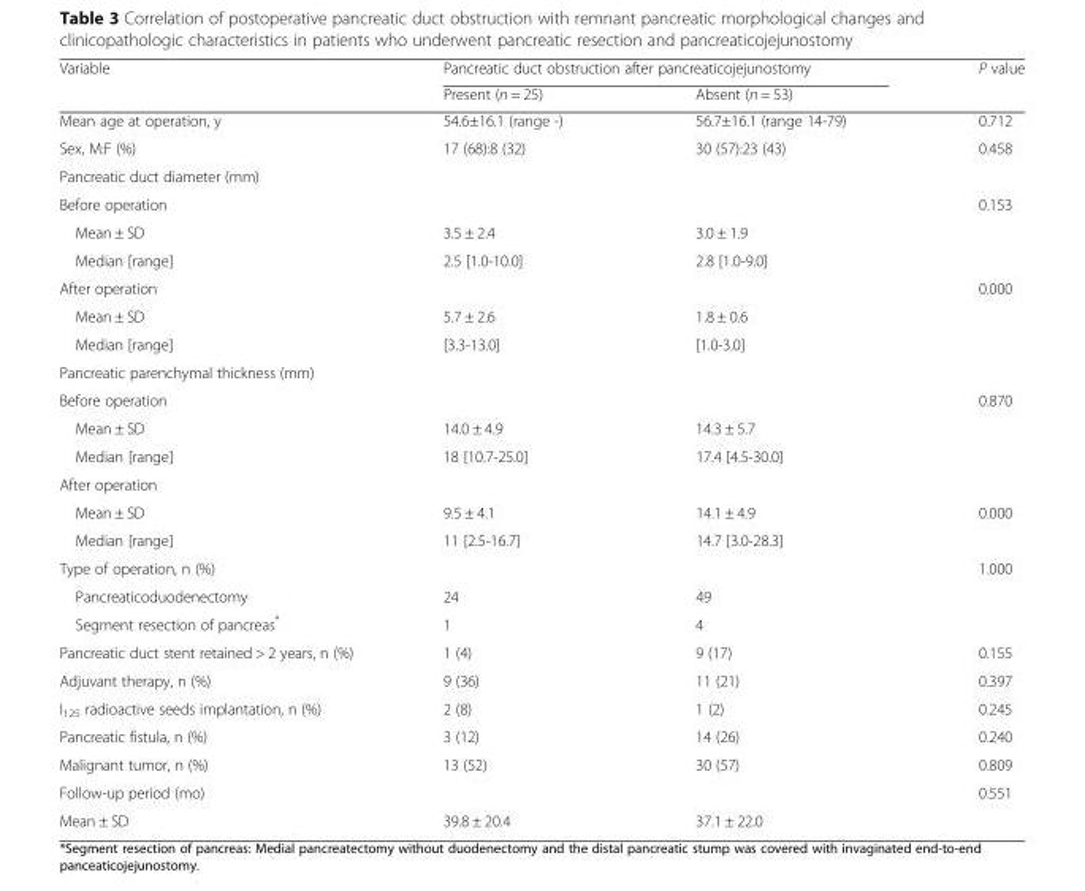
<table><thead><tr><td rowspan="2">Variable</td><td colspan="2">Pancreatic duct obstruction after pancreaticojejunostomy</td><td rowspan="2">P value</td></tr><tr><td>Present (n = 25)</td><td>Absent (n = 53)</td></tr></thead><tbody><tr><td>Mean age at operation, y</td><td>54.6±16.1 (range -)</td><td>56.7±16.1 (range 14-79)</td><td>0.712</td></tr><tr><td>Sex, M:F (%)</td><td>17 (68):8 (32)</td><td>30 (57):23 (43)</td><td>0.458</td></tr><tr><td colspan="4">Pancreatic duct diameter (mm)</td></tr><tr><td>Before operation</td><td></td><td></td><td>0.153</td></tr><tr><td>Mean ± SD</td><td>3.5 ± 2.4</td><td>3.0 ± 1.9</td><td></td></tr><tr><td>Median [range]</td><td>2.5 [1.0-10.0]</td><td>2.8 [1.0-9.0]</td><td></td></tr><tr><td>After operation</td><td></td><td></td><td>0.000</td></tr><tr><td>Mean ± SD</td><td>5.7 ± 2.6</td><td>1.8 ± 0.6</td><td></td></tr><tr><td>Median [range]</td><td>[3.3-13.0]</td><td>[1.0-3.0]</td><td></td></tr><tr><td colspan="4">Pancreatic parenchymal thickness (mm)</td></tr><tr><td>Before operation</td><td></td><td></td><td>0.870</td></tr><tr><td>Mean ± SD</td><td>14.0 ± 4.9</td><td>14.3 ± 5.7</td><td></td></tr><tr><td>Median [range]</td><td>18 [10.7-25.0]</td><td>17.4 [4.5-30.0]</td><td></td></tr><tr><td colspan="4">After operation</td></tr><tr><td>Mean ± SD</td><td>9.5 ± 4.1</td><td>14.1 ± 4.9</td><td>0.000</td></tr><tr><td>Median [range]</td><td>11 [2.5-16.7]</td><td>14.7 [3.0-28.3]</td><td></td></tr><tr><td>Type of operation, n (%)</td><td></td><td></td><td>1.000</td></tr><tr><td>Pancreaticoduodenectomy</td><td>24</td><td>49</td><td></td></tr><tr><td>Segment resection of pancreas*</td><td>1</td><td>4</td><td></td></tr><tr><td>Pancreatic duct stent retained &gt; 2 years, n (%)</td><td>1 (4)</td><td>9 (17)</td><td>0.155</td></tr><tr><td>Adjuvant therapy, n (%)</td><td>9 (36)</td><td>11 (21)</td><td>0.397</td></tr><tr><td>I<sub>125</sub> radioactive seeds implantation, n (%)</td><td>2 (8)</td><td>1 (2)</td><td>0.245</td></tr><tr><td>Pancreatic fistula, n (%)</td><td>3 (12)</td><td>14 (26)</td><td>0.240</td></tr><tr><td>Malignant tumor, n (%)</td><td>13 (52)</td><td>30 (57)</td><td>0.809</td></tr><tr><td>Follow-up period (mo)</td><td></td><td></td><td>0.551</td></tr><tr><td>Mean ± SD</td><td>39.8 ± 20.4</td><td>37.1 ± 22.0</td><td></td></tr></tbody></table>